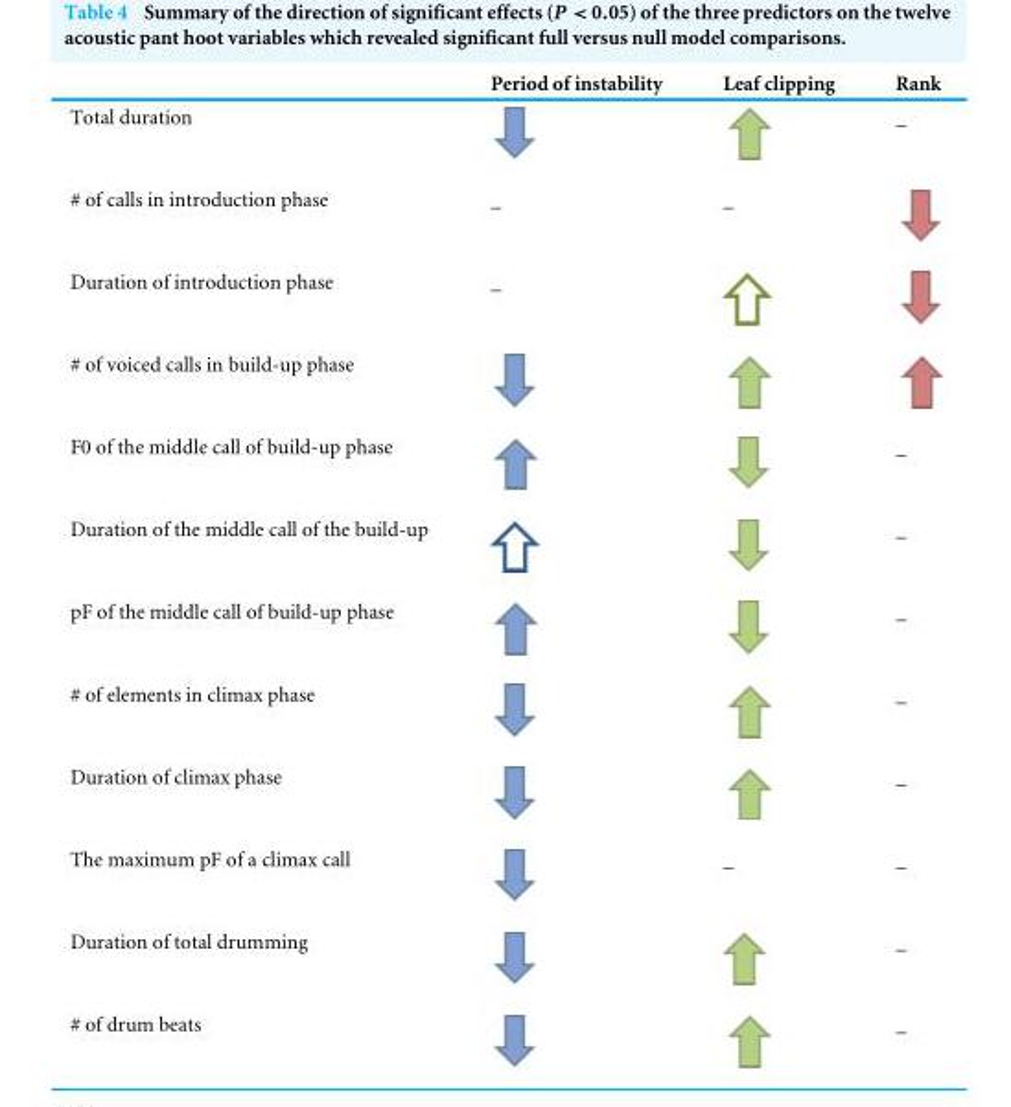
<table><thead><tr><td></td><td>Period of instability</td><td>Leaf clipping</td><td>Rank</td></tr></thead><tbody><tr><td>Total duration</td><td></td><td></td><td>_</td></tr><tr><td># of calls in introduction phase</td><td>_</td><td>_</td><td></td></tr><tr><td>Duration of introduction phase</td><td>_</td><td></td><td></td></tr><tr><td colspan="4"># of voiced calls in build-up phase</td></tr><tr><td>F0 of the middle call of build-up phase</td><td></td><td></td><td>_</td></tr><tr><td>Duration of the middle call of the build-up</td><td></td><td></td><td>_</td></tr><tr><td>pF of the middle call of build-up phase</td><td></td><td></td><td>_</td></tr><tr><td># of elements in climax phase</td><td></td><td></td><td>_</td></tr><tr><td>Duration of climax phase</td><td></td><td></td><td>_</td></tr><tr><td>The maximum pF of a climax call</td><td></td><td>_</td><td>_</td></tr><tr><td>Duration of total drumming</td><td></td><td></td><td>_</td></tr><tr><td># of drum beats</td><td></td><td></td><td>_</td></tr></tbody></table>